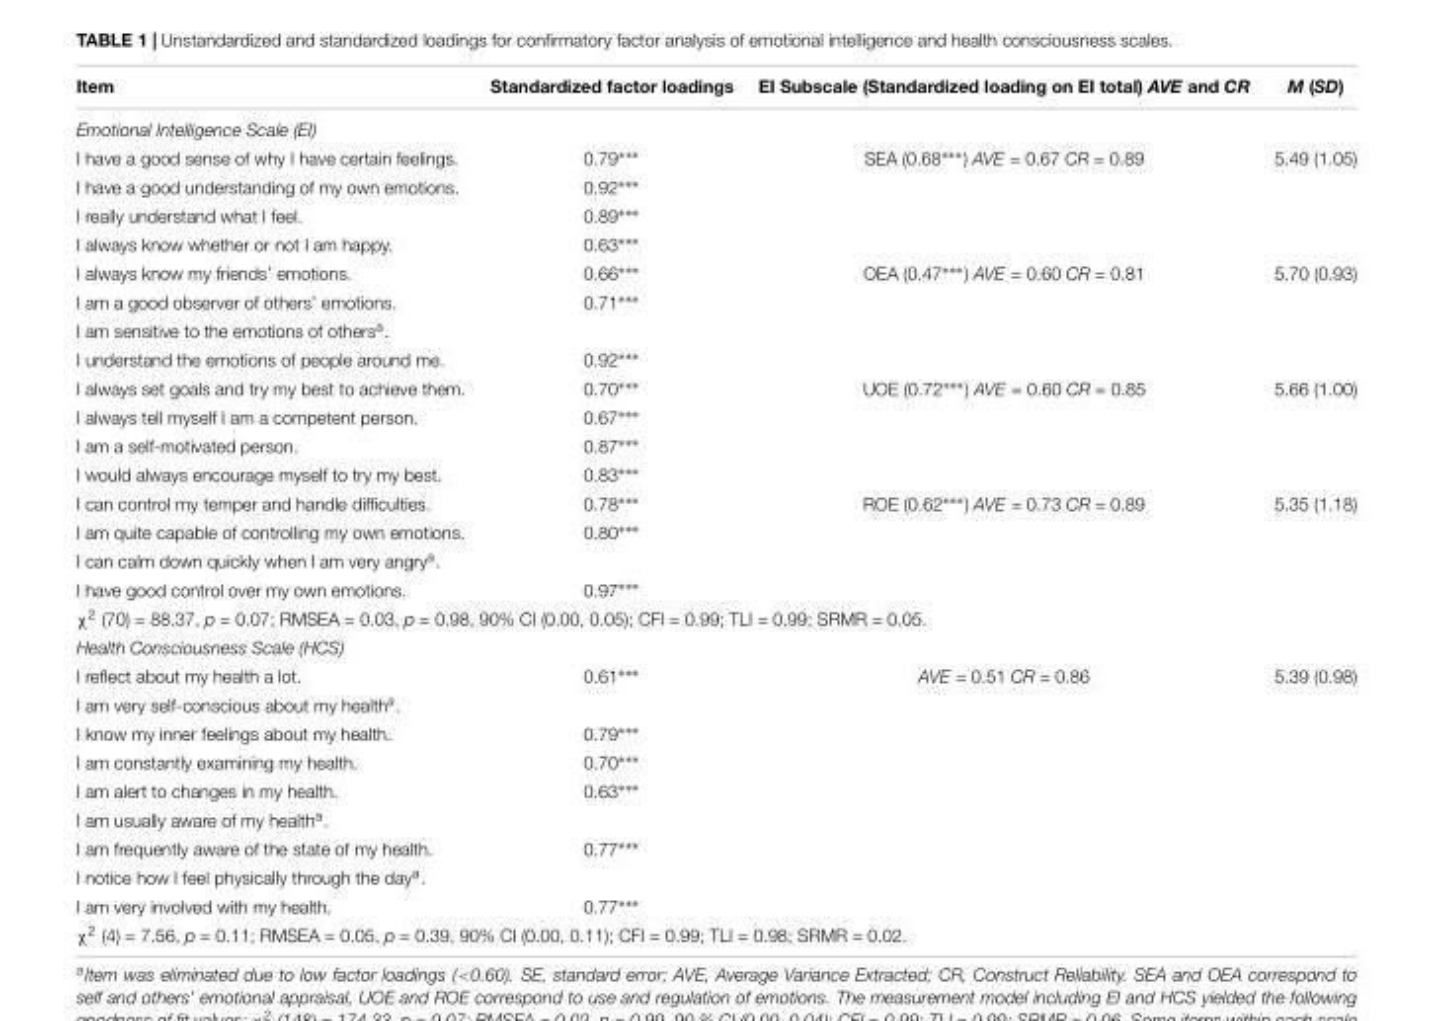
<table><thead><tr><td>Item</td><td>Standardized factor loadings</td><td>EI Subscale (Standardized loading on EI total) AVE and CR</td><td>M (SD)</td></tr></thead><tbody><tr><td colspan="4">Emotional Intelligence Scale (EI)</td></tr><tr><td>I have a good sense of why I have certain feelings.</td><td>0.79∗∗∗</td><td>SEA (0.68∗∗∗) AVE = 0.67 CR = 0.89</td><td>5.49 (1.05)</td></tr><tr><td>I have a good understanding of my own emotions.</td><td>0.92∗∗∗</td><td></td><td></td></tr><tr><td>I really understand what I feel.</td><td>0.89∗∗∗</td><td></td><td></td></tr><tr><td>I always know whether or not I am happy.</td><td>0.63∗∗∗</td><td></td><td></td></tr><tr><td>I always know my friends’ emotions.</td><td>0.66∗∗∗</td><td>OEA (0.47∗∗∗) AVE = 0.60 CR = 0.81</td><td>5.70 (0.93)</td></tr><tr><td>I am a good observer of others’ emotions.</td><td>0.71∗∗∗</td><td></td><td></td></tr><tr><td colspan="4">I am sensitive to the emotions of others<sup>a</sup>.</td></tr><tr><td>I understand the emotions of people around me.</td><td>0.92∗∗∗</td><td></td><td></td></tr><tr><td>I always set goals and try my best to achieve them.</td><td>0.70∗∗∗</td><td>UOE (0.72∗∗∗) AVE = 0.60 CR = 0.85</td><td>5.66 (1.00)</td></tr><tr><td>I always tell myself I am a competent person.</td><td>0.67∗∗∗</td><td></td><td></td></tr><tr><td>I am a self-motivated person.</td><td>0.87∗∗∗</td><td></td><td></td></tr><tr><td>I would always encourage myself to try my best.</td><td>0.83∗∗∗</td><td></td><td></td></tr><tr><td>I can control my temper and handle difficulties.</td><td>0.78∗∗∗</td><td>ROE (0.62∗∗∗) AVE = 0.73 CR = 0.89</td><td>5.35 (1.18)</td></tr><tr><td>I am quite capable of controlling my own emotions.</td><td>0.80∗∗∗</td><td></td><td></td></tr><tr><td colspan="4">I can calm down quickly when I am very angry<sup>a</sup>.</td></tr><tr><td>I have good control over my own emotions.</td><td>0.97∗∗∗</td><td></td><td></td></tr><tr><td colspan="4">χ<sup>2</sup> (70) = 88.37, p = 0.07; RMSEA = 0.03, p = 0.98, 90% CI (0.00, 0.05); CFI = 0.99; TLI = 0.99; SRMR = 0.05.</td></tr><tr><td colspan="4">Health Consciousness Scale (HCS)</td></tr><tr><td>I reflect about my health a lot.</td><td>0.61∗∗∗</td><td>AVE = 0.51 CR = 0.86</td><td>5.39 (0.98)</td></tr><tr><td colspan="4">I am very self-conscious about my health<sup>a</sup>.</td></tr><tr><td>I know my inner feelings about my health.</td><td>0.79∗∗∗</td><td></td><td></td></tr><tr><td>I am constantly examining my health.</td><td>0.70∗∗∗</td><td></td><td></td></tr><tr><td>I am alert to changes in my health.</td><td>0.63∗∗∗</td><td></td><td></td></tr><tr><td colspan="4">I am usually aware of my health<sup>a</sup>.</td></tr><tr><td>I am frequently aware of the state of my health.</td><td>0.77∗∗∗</td><td></td><td></td></tr><tr><td colspan="4">I notice how I feel physically through the day<sup>a</sup>.</td></tr><tr><td>I am very involved with my health.</td><td>0.77∗∗∗</td><td></td><td></td></tr><tr><td colspan="4">χ<sup>2</sup> (4) = 7.56, p = 0.11; RMSEA = 0.05, p = 0.39, 90% CI (0.00, 0.11); CFI = 0.99; TLI = 0.98; SRMR = 0.02.</td></tr></tbody></table>